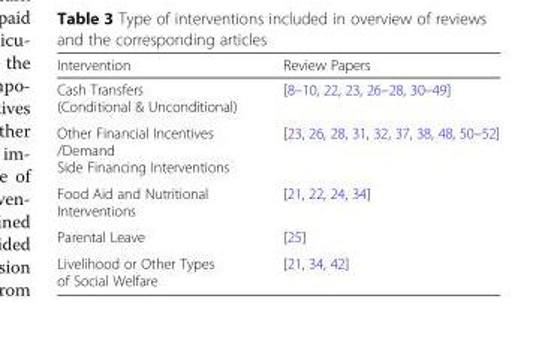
<table><thead><tr><td>Intervention</td><td>Review Papers</td></tr></thead><tbody><tr><td>Cash Transfers (Conditional &amp; Unconditional)</td><td>[8–10, 22, 23, 26–28, 30–49]</td></tr><tr><td>Other Financial Incentives /Demand Side Financing Interventions</td><td>[23, 26, 28, 31, 32, 37, 38, 48, 50–52]</td></tr><tr><td>Food Aid and Nutritional Interventions</td><td>[21, 22, 24, 34]</td></tr><tr><td>Parental Leave</td><td>[25]</td></tr><tr><td>Livelihood or Other Types of Social Welfare</td><td>[21, 34, 42]</td></tr></tbody></table>